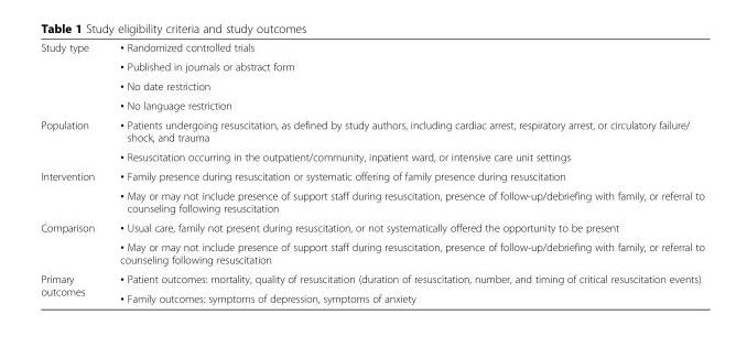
<table><tbody><tr><td rowspan="4">Study type</td><td>• Randomized controlled trials</td></tr><tr><td>• Published in journals or abstract form</td></tr><tr><td>• No date restriction</td></tr><tr><td>• No language restriction</td></tr><tr><td rowspan="2">Population</td><td>• Patients undergoing resuscitation, as defined by study authors, including cardiac arrest, respiratory arrest, or circulatory failure/ shock, and trauma</td></tr><tr><td>• Resuscitation occurring in the outpatient/community, inpatient ward, or intensive care unit settings</td></tr><tr><td rowspan="2">Intervention</td><td>• Family presence during resuscitation or systematic offering of family presence during resuscitation</td></tr><tr><td>• May or may not include presence of support staff during resuscitation, presence of follow-up/debriefing with family, or referral to counseling following resuscitation</td></tr><tr><td rowspan="2">Comparison</td><td>• Usual care, family not present during resuscitation, or not systematically offered the opportunity to be present</td></tr><tr><td>• May or may not include presence of support staff during resuscitation, presence of follow-up/debriefing with family, or referral to counseling following resuscitation</td></tr><tr><td rowspan="2">Primary outcomes</td><td>• Patient outcomes: mortality, quality of resuscitation (duration of resuscitation, number, and timing of critical resuscitation events)</td></tr><tr><td>• Family outcomes: symptoms of depression, symptoms of anxiety</td></tr></tbody></table>